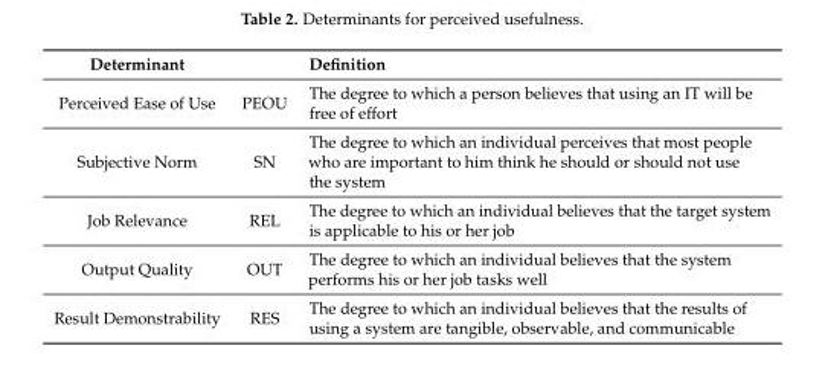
<table><thead><tr><td>Determinant</td><td></td><td>Definition</td></tr></thead><tbody><tr><td>Perceived Ease of Use</td><td>PEOU</td><td>The degree to which a person believes that using an IT will be free of effort</td></tr><tr><td>Subjective Norm</td><td>SN</td><td>The degree to which an individual perceives that most people who are important to him think he should or should not use the system</td></tr><tr><td>Job Relevance</td><td>REL</td><td>The degree to which an individual believes that the target system is applicable to his or her job</td></tr><tr><td>Output Quality</td><td>OUT</td><td>The degree to which an individual believes that the system performs his or her job tasks well</td></tr><tr><td>Result Demonstrability</td><td>RES</td><td>The degree to which an individual believes that the results of using a system are tangible, observable, and communicable</td></tr></tbody></table>